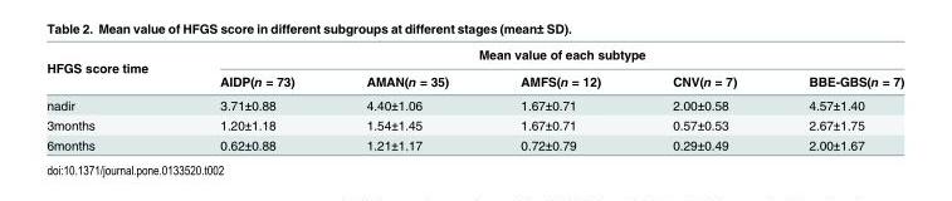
<table><thead><tr><td rowspan="2">HFGS score time</td><td colspan="5">Mean value of each subtype</td></tr><tr><td>AIDP(n = 73)</td><td>AMAN(n = 35)</td><td>AMFS(n = 12)</td><td>CNV(n = 7)</td><td>BBE-GBS(n = 7)</td></tr></thead><tbody><tr><td>nadir</td><td>3.71±0.88</td><td>4.40±1.06</td><td>1.67±0.71</td><td>2.00±0.58</td><td>4.57±1.40</td></tr><tr><td>3months</td><td>1.20±1.18</td><td>1.54±1.45</td><td>1.67±0.71</td><td>0.57±0.53</td><td>2.67±1.75</td></tr><tr><td>6months</td><td>0.62±0.88</td><td>1.21±1.17</td><td>0.72±0.79</td><td>0.29±0.49</td><td>2.00±1.67</td></tr></tbody></table>